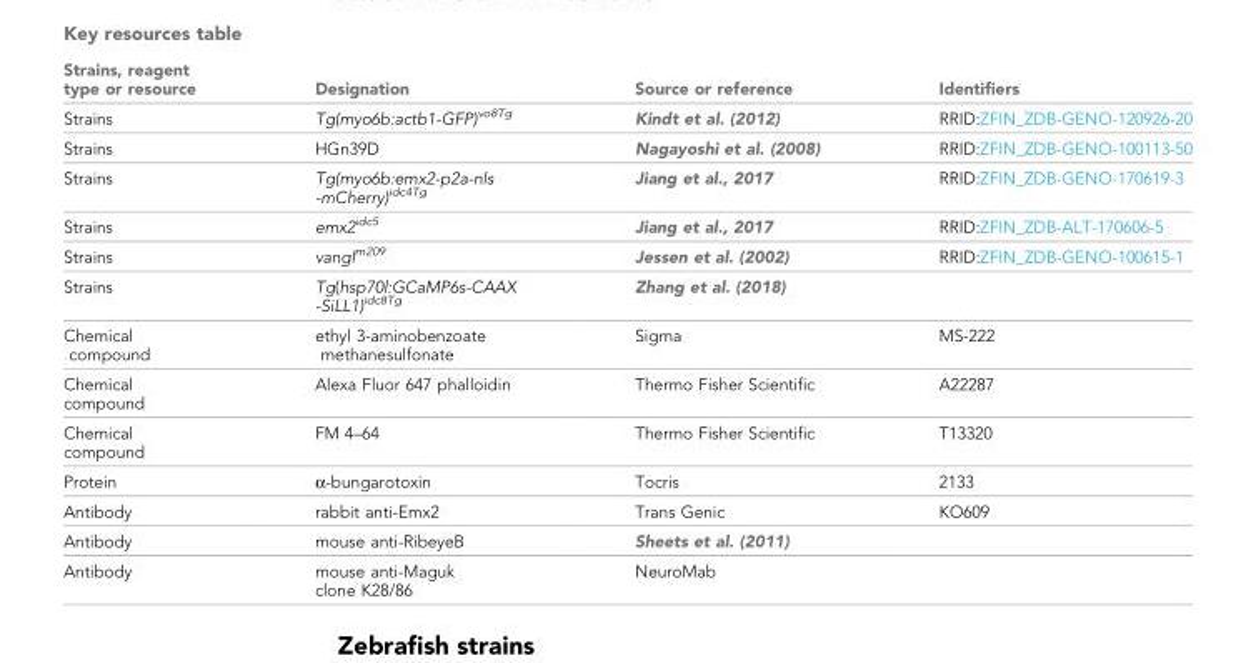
<table><thead><tr><td>Strains, reagent type or resource</td><td>Designation</td><td>Source or reference</td><td>Identifiers</td></tr></thead><tbody><tr><td>Strains</td><td>Tg(myo6b:actb1-GFP)<sup>vo8Tg</sup></td><td>Kindt et al. (2012)</td><td>RRID:ZFIN_ZDB-GENO-120926-20</td></tr><tr><td>Strains</td><td>HGn39D</td><td>Nagayoshi et al. (2008)</td><td>RRID:ZFIN_ZDB-GENO-100113-50</td></tr><tr><td>Strains</td><td>Tg(myo6b:emx2-p2a-nls -mCherry)<sup>idc4Tg</sup></td><td>Jiang et al., 2017</td><td>RRID:ZFIN_ZDB-GENO-170619-3</td></tr><tr><td>Strains</td><td>emx2<sup>idc5</sup></td><td>Jiang et al., 2017</td><td>RRID:ZFIN_ZDB-ALT-170606-5</td></tr><tr><td>Strains</td><td>vangl<sup>m209</sup></td><td>Jessen et al. (2002)</td><td>RRID:ZFIN_ZDB-GENO-100615-1</td></tr><tr><td>Strains</td><td>Tg(hsp70l:GCaMP6s-CAAX -SiLL1)<sup>idc8Tg</sup></td><td>Zhang et al. (2018)</td><td></td></tr><tr><td>Chemical compound</td><td>ethyl 3-aminobenzoate methanesulfonate</td><td>Sigma</td><td>MS-222</td></tr><tr><td>Chemical compound</td><td>Alexa Fluor 647 phalloidin</td><td>Thermo Fisher Scientific</td><td>A22287</td></tr><tr><td>Chemical compound</td><td>FM 4–64</td><td>Thermo Fisher Scientific</td><td>T13320</td></tr><tr><td>Protein</td><td>α-bungarotoxin</td><td>Tocris</td><td>2133</td></tr><tr><td>Antibody</td><td>rabbit anti-Emx2</td><td>Trans Genic</td><td>KO609</td></tr><tr><td>Antibody</td><td>mouse anti-RibeyeB</td><td>Sheets et al. (2011)</td><td></td></tr><tr><td>Antibody</td><td>mouse anti-Maguk clone K28/86</td><td>NeuroMab</td><td></td></tr></tbody></table>